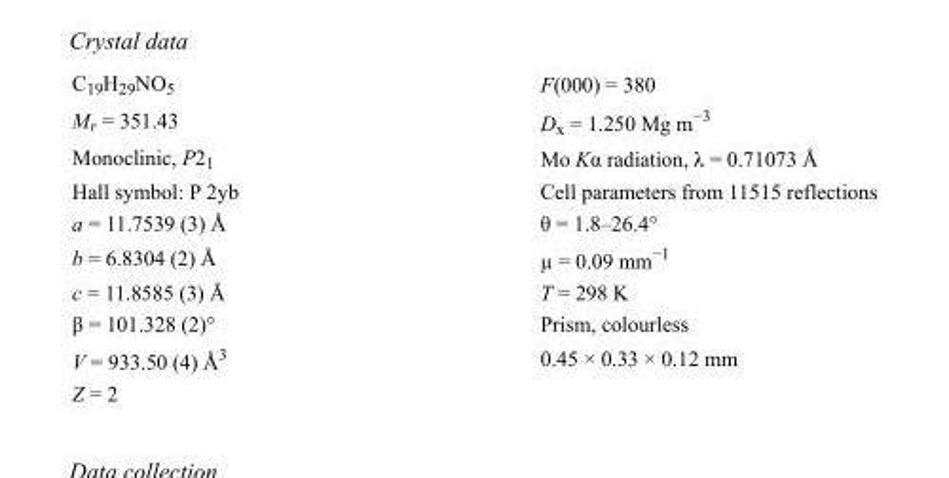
<table><tbody><tr><td>C<sub>19</sub>H<sub>29</sub>NO<sub>5</sub></td><td>F(000) = 380</td></tr><tr><td>M<sub>r</sub> = 351.43</td><td>D<sub>x</sub> = 1.250 Mg m<sup>−3</sup></td></tr><tr><td>Monoclinic, P2<sub>1</sub></td><td>Mo Kα radiation, λ = 0.71073 Å</td></tr><tr><td>Hall symbol: P 2yb</td><td>Cell parameters from 11515 reflections</td></tr><tr><td>a = 11.7539 (3) Å</td><td>θ = 1.8–26.4°</td></tr><tr><td>b = 6.8304 (2) Å</td><td>µ = 0.09 mm<sup>−1</sup></td></tr><tr><td>c = 11.8585 (3) Å</td><td>T = 298 K</td></tr><tr><td>β = 101.328 (2)°</td><td>Prism, colourless</td></tr><tr><td>V = 933.50 (4) Å<sup>3</sup></td><td>0.45 × 0.33 × 0.12 mm</td></tr><tr><td>Z = 2</td><td></td></tr></tbody></table>